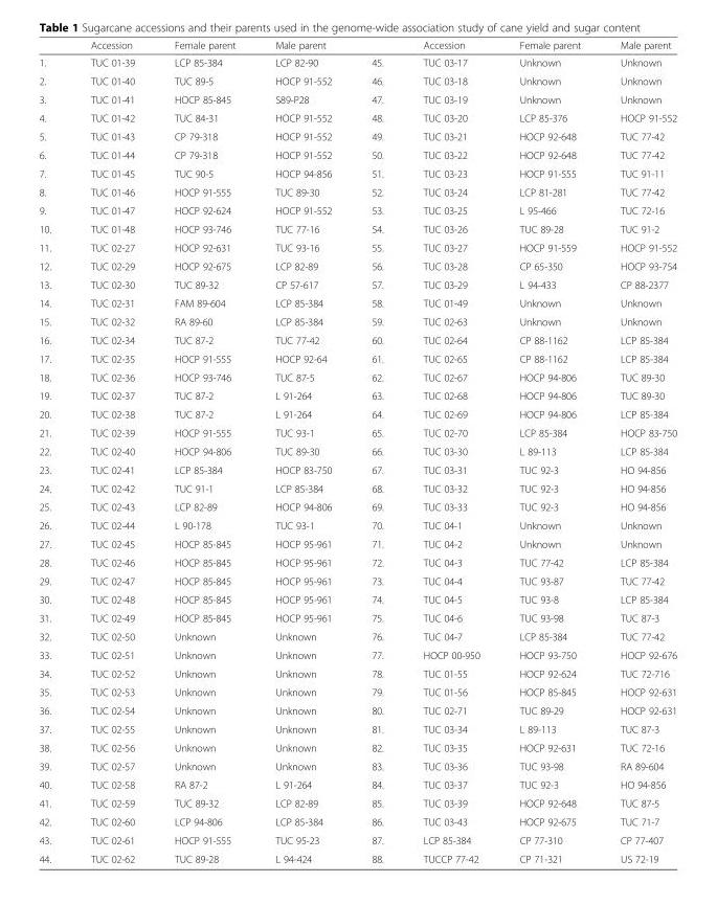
<table><thead><tr><td></td><td>Accession</td><td>Female parent</td><td>Male parent</td><td></td><td>Accession</td><td>Female parent</td><td>Male parent</td></tr></thead><tbody><tr><td>1.</td><td>TUC 01-39</td><td>LCP 85-384</td><td>LCP 82-90</td><td>45.</td><td>TUC 03-17</td><td>Unknown</td><td>Unknown</td></tr><tr><td>2.</td><td>TUC 01-40</td><td>TUC 89-5</td><td>HOCP 91-552</td><td>46.</td><td>TUC 03-18</td><td>Unknown</td><td>Unknown</td></tr><tr><td>3.</td><td>TUC 01-41</td><td>HOCP 85-845</td><td>S89-P28</td><td>47.</td><td>TUC 03-19</td><td>Unknown</td><td>Unknown</td></tr><tr><td>4.</td><td>TUC 01-42</td><td>TUC 84-31</td><td>HOCP 91-552</td><td>48.</td><td>TUC 03-20</td><td>LCP 85-376</td><td>HOCP 91-552</td></tr><tr><td>5.</td><td>TUC 01-43</td><td>CP 79-318</td><td>HOCP 91-552</td><td>49.</td><td>TUC 03-21</td><td>HOCP 92-648</td><td>TUC 77-42</td></tr><tr><td>6.</td><td>TUC 01-44</td><td>CP 79-318</td><td>HOCP 91-552</td><td>50.</td><td>TUC 03-22</td><td>HOCP 92-648</td><td>TUC 77-42</td></tr><tr><td>7.</td><td>TUC 01-45</td><td>TUC 90-5</td><td>HOCP 94-856</td><td>51.</td><td>TUC 03-23</td><td>HOCP 91-555</td><td>TUC 91-11</td></tr><tr><td>8.</td><td>TUC 01-46</td><td>HOCP 91-555</td><td>TUC 89-30</td><td>52.</td><td>TUC 03-24</td><td>LCP 81-281</td><td>TUC 77-42</td></tr><tr><td>9.</td><td>TUC 01-47</td><td>HOCP 92-624</td><td>HOCP 91-552</td><td>53.</td><td>TUC 03-25</td><td>L 95-466</td><td>TUC 72-16</td></tr><tr><td>10.</td><td>TUC 01-48</td><td>HOCP 93-746</td><td>TUC 77-16</td><td>54.</td><td>TUC 03-26</td><td>TUC 89-28</td><td>TUC 91-2</td></tr><tr><td>11.</td><td>TUC 02-27</td><td>HOCP 92-631</td><td>TUC 93-16</td><td>55.</td><td>TUC 03-27</td><td>HOCP 91-559</td><td>HOCP 91-552</td></tr><tr><td>12.</td><td>TUC 02-29</td><td>HOCP 92-675</td><td>LCP 82-89</td><td>56.</td><td>TUC 03-28</td><td>CP 65-350</td><td>HOCP 93-754</td></tr><tr><td>13.</td><td>TUC 02-30</td><td>TUC 89-32</td><td>CP 57-617</td><td>57.</td><td>TUC 03-29</td><td>L 94-433</td><td>CP 88-2377</td></tr><tr><td>14.</td><td>TUC 02-31</td><td>FAM 89-604</td><td>LCP 85-384</td><td>58.</td><td>TUC 01-49</td><td>Unknown</td><td>Unknown</td></tr><tr><td>15.</td><td>TUC 02-32</td><td>RA 89-60</td><td>LCP 85-384</td><td>59.</td><td>TUC 02-63</td><td>Unknown</td><td>Unknown</td></tr><tr><td>16.</td><td>TUC 02-34</td><td>TUC 87-2</td><td>TUC 77-42</td><td>60.</td><td>TUC 02-64</td><td>CP 88-1162</td><td>LCP 85-384</td></tr><tr><td>17.</td><td>TUC 02-35</td><td>HOCP 91-555</td><td>HOCP 92-64</td><td>61.</td><td>TUC 02-65</td><td>CP 88-1162</td><td>LCP 85-384</td></tr><tr><td>18.</td><td>TUC 02-36</td><td>HOCP 93-746</td><td>TUC 87-5</td><td>62.</td><td>TUC 02-67</td><td>HOCP 94-806</td><td>TUC 89-30</td></tr><tr><td>19.</td><td>TUC 02-37</td><td>TUC 87-2</td><td>L 91-264</td><td>63.</td><td>TUC 02-68</td><td>HOCP 94-806</td><td>TUC 89-30</td></tr><tr><td>20.</td><td>TUC 02-38</td><td>TUC 87-2</td><td>L 91-264</td><td>64.</td><td>TUC 02-69</td><td>HOCP 94-806</td><td>LCP 85-384</td></tr><tr><td>21.</td><td>TUC 02-39</td><td>HOCP 91-555</td><td>TUC 93-1</td><td>65.</td><td>TUC 02-70</td><td>LCP 85-384</td><td>HOCP 83-750</td></tr><tr><td>22.</td><td>TUC 02-40</td><td>HOCP 94-806</td><td>TUC 89-30</td><td>66.</td><td>TUC 03-30</td><td>L 89-113</td><td>LCP 85-384</td></tr><tr><td>23.</td><td>TUC 02-41</td><td>LCP 85-384</td><td>HOCP 83-750</td><td>67.</td><td>TUC 03-31</td><td>TUC 92-3</td><td>HO 94-856</td></tr><tr><td>24.</td><td>TUC 02-42</td><td>TUC 91-1</td><td>LCP 85-384</td><td>68.</td><td>TUC 03-32</td><td>TUC 92-3</td><td>HO 94-856</td></tr><tr><td>25.</td><td>TUC 02-43</td><td>LCP 82-89</td><td>HOCP 94-806</td><td>69.</td><td>TUC 03-33</td><td>TUC 92-3</td><td>HO 94-856</td></tr><tr><td>26.</td><td>TUC 02-44</td><td>L 90-178</td><td>TUC 93-1</td><td>70.</td><td>TUC 04-1</td><td>Unknown</td><td>Unknown</td></tr><tr><td>27.</td><td>TUC 02-45</td><td>HOCP 85-845</td><td>HOCP 95-961</td><td>71.</td><td>TUC 04-2</td><td>Unknown</td><td>Unknown</td></tr><tr><td>28.</td><td>TUC 02-46</td><td>HOCP 85-845</td><td>HOCP 95-961</td><td>72.</td><td>TUC 04-3</td><td>TUC 77-42</td><td>LCP 85-384</td></tr><tr><td>29.</td><td>TUC 02-47</td><td>HOCP 85-845</td><td>HOCP 95-961</td><td>73.</td><td>TUC 04-4</td><td>TUC 93-87</td><td>TUC 77-42</td></tr><tr><td>30.</td><td>TUC 02-48</td><td>HOCP 85-845</td><td>HOCP 95-961</td><td>74.</td><td>TUC 04-5</td><td>TUC 93-8</td><td>LCP 85-384</td></tr><tr><td>31.</td><td>TUC 02-49</td><td>HOCP 85-845</td><td>HOCP 95-961</td><td>75.</td><td>TUC 04-6</td><td>TUC 93-98</td><td>TUC 87-3</td></tr><tr><td>32.</td><td>TUC 02-50</td><td>Unknown</td><td>Unknown</td><td>76.</td><td>TUC 04-7</td><td>LCP 85-384</td><td>TUC 77-42</td></tr><tr><td>33.</td><td>TUC 02-51</td><td>Unknown</td><td>Unknown</td><td>77.</td><td>HOCP 00-950</td><td>HOCP 93-750</td><td>HOCP 92-676</td></tr><tr><td>34.</td><td>TUC 02-52</td><td>Unknown</td><td>Unknown</td><td>78.</td><td>TUC 01-55</td><td>HOCP 92-624</td><td>TUC 72-716</td></tr><tr><td>35.</td><td>TUC 02-53</td><td>Unknown</td><td>Unknown</td><td>79.</td><td>TUC 01-56</td><td>HOCP 85-845</td><td>HOCP 92-631</td></tr><tr><td>36.</td><td>TUC 02-54</td><td>Unknown</td><td>Unknown</td><td>80.</td><td>TUC 02-71</td><td>TUC 89-29</td><td>HOCP 92-631</td></tr><tr><td>37.</td><td>TUC 02-55</td><td>Unknown</td><td>Unknown</td><td>81.</td><td>TUC 03-34</td><td>L 89-113</td><td>TUC 87-3</td></tr><tr><td>38.</td><td>TUC 02-56</td><td>Unknown</td><td>Unknown</td><td>82.</td><td>TUC 03-35</td><td>HOCP 92-631</td><td>TUC 72-16</td></tr><tr><td>39.</td><td>TUC 02-57</td><td>Unknown</td><td>Unknown</td><td>83.</td><td>TUC 03-36</td><td>TUC 93-98</td><td>RA 89-604</td></tr><tr><td>40.</td><td>TUC 02-58</td><td>RA 87-2</td><td>L 91-264</td><td>84.</td><td>TUC 03-37</td><td>TUC 92-3</td><td>HO 94-856</td></tr><tr><td>41.</td><td>TUC 02-59</td><td>TUC 89-32</td><td>LCP 82-89</td><td>85.</td><td>TUC 03-39</td><td>HOCP 92-648</td><td>TUC 87-5</td></tr><tr><td>42.</td><td>TUC 02-60</td><td>LCP 94-806</td><td>LCP 85-384</td><td>86.</td><td>TUC 03-43</td><td>HOCP 92-675</td><td>TUC 71-7</td></tr><tr><td>43.</td><td>TUC 02-61</td><td>HOCP 91-555</td><td>TUC 95-23</td><td>87.</td><td>LCP 85-384</td><td>CP 77-310</td><td>CP 77-407</td></tr><tr><td>44.</td><td>TUC 02-62</td><td>TUC 89-28</td><td>L 94-424</td><td>88.</td><td>TUCCP 77-42</td><td>CP 71-321</td><td>US 72-19</td></tr></tbody></table>